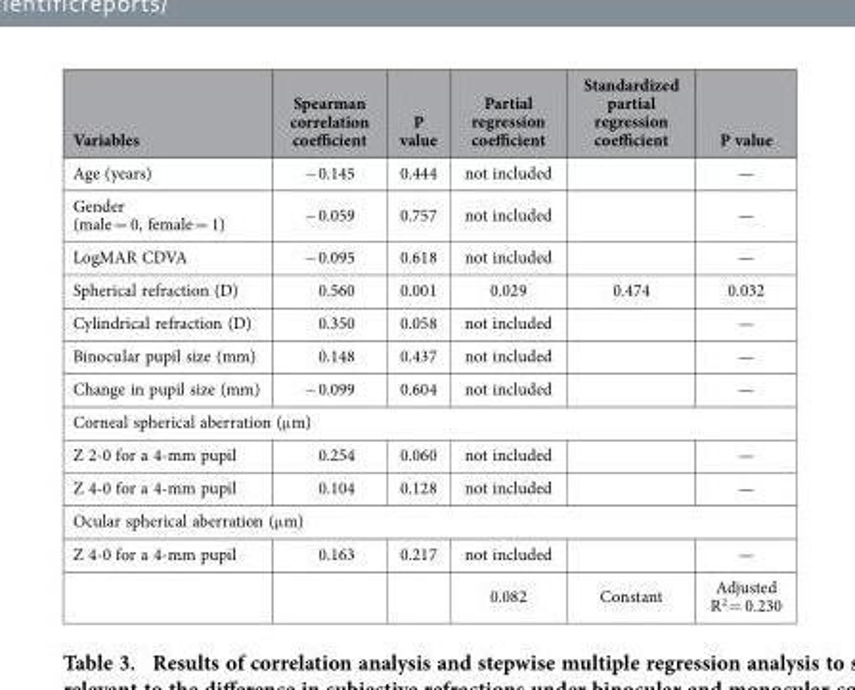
<table><thead><tr><td>Variables</td><td>Spearman correlation coefficient</td><td>P value</td><td>Partial regression coefficient</td><td>Standardized partial regression coefficient</td><td>P value</td></tr></thead><tbody><tr><td>Age (years)</td><td>− 0.145</td><td>0.444</td><td>not included</td><td></td><td>—</td></tr><tr><td>Gender (male = 0, female = 1)</td><td>− 0.059</td><td>0.757</td><td>not included</td><td></td><td>—</td></tr><tr><td>LogMAR CDVA</td><td>− 0.095</td><td>0.618</td><td>not included</td><td></td><td>—</td></tr><tr><td>Spherical refraction (D)</td><td>0.560</td><td>0.001</td><td>0.029</td><td>0.474</td><td>0.032</td></tr><tr><td>Cylindrical refraction (D)</td><td>0.350</td><td>0.058</td><td>not included</td><td></td><td>—</td></tr><tr><td>Binocular pupil size (mm)</td><td>0.148</td><td>0.437</td><td>not included</td><td></td><td>—</td></tr><tr><td>Change in pupil size (mm)</td><td>− 0.099</td><td>0.604</td><td>not included</td><td></td><td>—</td></tr><tr><td colspan="6">Corneal spherical aberration (μ m)</td></tr><tr><td>Z 2-0 for a 4-mm pupil</td><td>0.254</td><td>0.060</td><td>not included</td><td></td><td>—</td></tr><tr><td>Z 4-0 for a 4-mm pupil</td><td>0.104</td><td>0.128</td><td>not included</td><td></td><td>—</td></tr><tr><td colspan="6">Ocular spherical aberration (μ m)</td></tr><tr><td rowspan="2">Z 4-0 for a 4-mm pupil</td><td>0.163</td><td>0.217</td><td>not included</td><td></td><td>—</td></tr><tr><td></td><td></td><td>0.082</td><td>Constant</td><td>Adjusted R<sup>2</sup> = 0.230</td></tr></tbody></table>